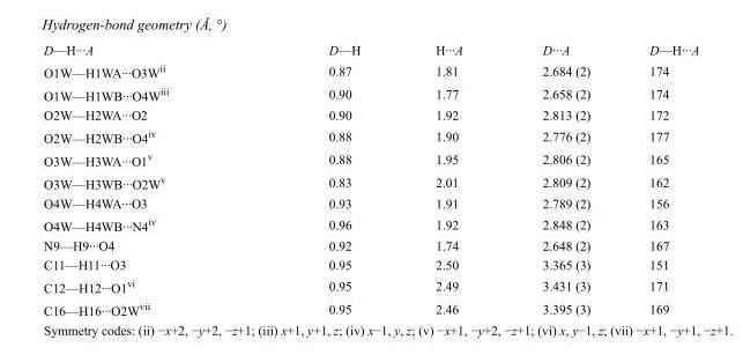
<table><tbody><tr><td>D—H···A</td><td>D—H</td><td>H···A</td><td>D···A</td><td>D—H···A</td></tr><tr><td>O1W—H1WA···O3W<sup>ii</sup></td><td>0.87</td><td>1.81</td><td>2.684 (2)</td><td>174</td></tr><tr><td>O1W—H1WB···O4W<sup>iii</sup></td><td>0.90</td><td>1.77</td><td>2.658 (2)</td><td>174</td></tr><tr><td>O2W—H2WA···O2</td><td>0.90</td><td>1.92</td><td>2.813 (2)</td><td>172</td></tr><tr><td>O2W—H2WB···O4<sup>iv</sup></td><td>0.88</td><td>1.90</td><td>2.776 (2)</td><td>177</td></tr><tr><td>O3W—H3WA···O1<sup>v</sup></td><td>0.88</td><td>1.95</td><td>2.806 (2)</td><td>165</td></tr><tr><td>O3W—H3WB···O2W<sup>v</sup></td><td>0.83</td><td>2.01</td><td>2.809 (2)</td><td>162</td></tr><tr><td>O4W—H4WA···O3</td><td>0.93</td><td>1.91</td><td>2.789 (2)</td><td>156</td></tr><tr><td>O4W—H4WB···N4<sup>iv</sup></td><td>0.96</td><td>1.92</td><td>2.848 (2)</td><td>163</td></tr><tr><td>N9—H9···O4</td><td>0.92</td><td>1.74</td><td>2.648 (2)</td><td>167</td></tr><tr><td>C11—H11···O3</td><td>0.95</td><td>2.50</td><td>3.365 (3)</td><td>151</td></tr><tr><td>C12—H12···O1<sup>vi</sup></td><td>0.95</td><td>2.49</td><td>3.431 (3)</td><td>171</td></tr><tr><td>C16—H16···O2W<sup>vii</sup></td><td>0.95</td><td>2.46</td><td>3.395 (3)</td><td>169</td></tr></tbody></table>